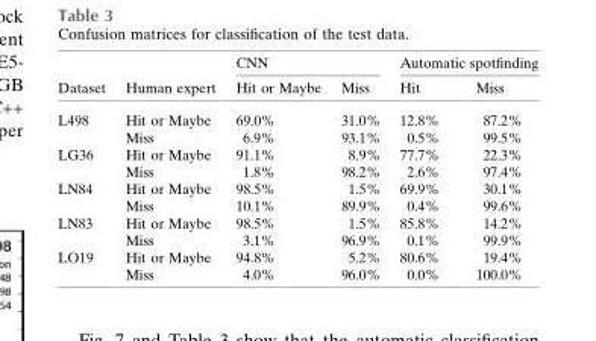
<table><thead><tr><td rowspan="2">Dataset</td><td rowspan="2">Human expert</td><td colspan="2">CNN</td><td colspan="2">Automatic spotfinding</td></tr><tr><td>Hit or Maybe</td><td>Miss</td><td>Hit</td><td>Miss</td></tr></thead><tbody><tr><td rowspan="2">L498</td><td>Hit or Maybe</td><td>69.0%</td><td>31.0%</td><td>12.8%</td><td>87.2%</td></tr><tr><td>Miss</td><td>6.9%</td><td>93.1%</td><td>0.5%</td><td>99.5%</td></tr><tr><td rowspan="2">LG36</td><td>Hit or Maybe</td><td>91.1%</td><td>8.9%</td><td>77.7%</td><td>22.3%</td></tr><tr><td>Miss</td><td>1.8%</td><td>98.2%</td><td>2.6%</td><td>97.4%</td></tr><tr><td rowspan="2">LN84</td><td>Hit or Maybe</td><td>98.5%</td><td>1.5%</td><td>69.9%</td><td>30.1%</td></tr><tr><td>Miss</td><td>10.1%</td><td>89.9%</td><td>0.4%</td><td>99.6%</td></tr><tr><td rowspan="2">LN83</td><td>Hit or Maybe</td><td>98.5%</td><td>1.5%</td><td>85.8%</td><td>14.2%</td></tr><tr><td>Miss</td><td>3.1%</td><td>96.9%</td><td>0.1%</td><td>99.9%</td></tr><tr><td rowspan="2">LO19</td><td>Hit or Maybe</td><td>94.8%</td><td>5.2%</td><td>80.6%</td><td>19.4%</td></tr><tr><td>Miss</td><td>4.0%</td><td>96.0%</td><td>0.0%</td><td>100.0%</td></tr></tbody></table>